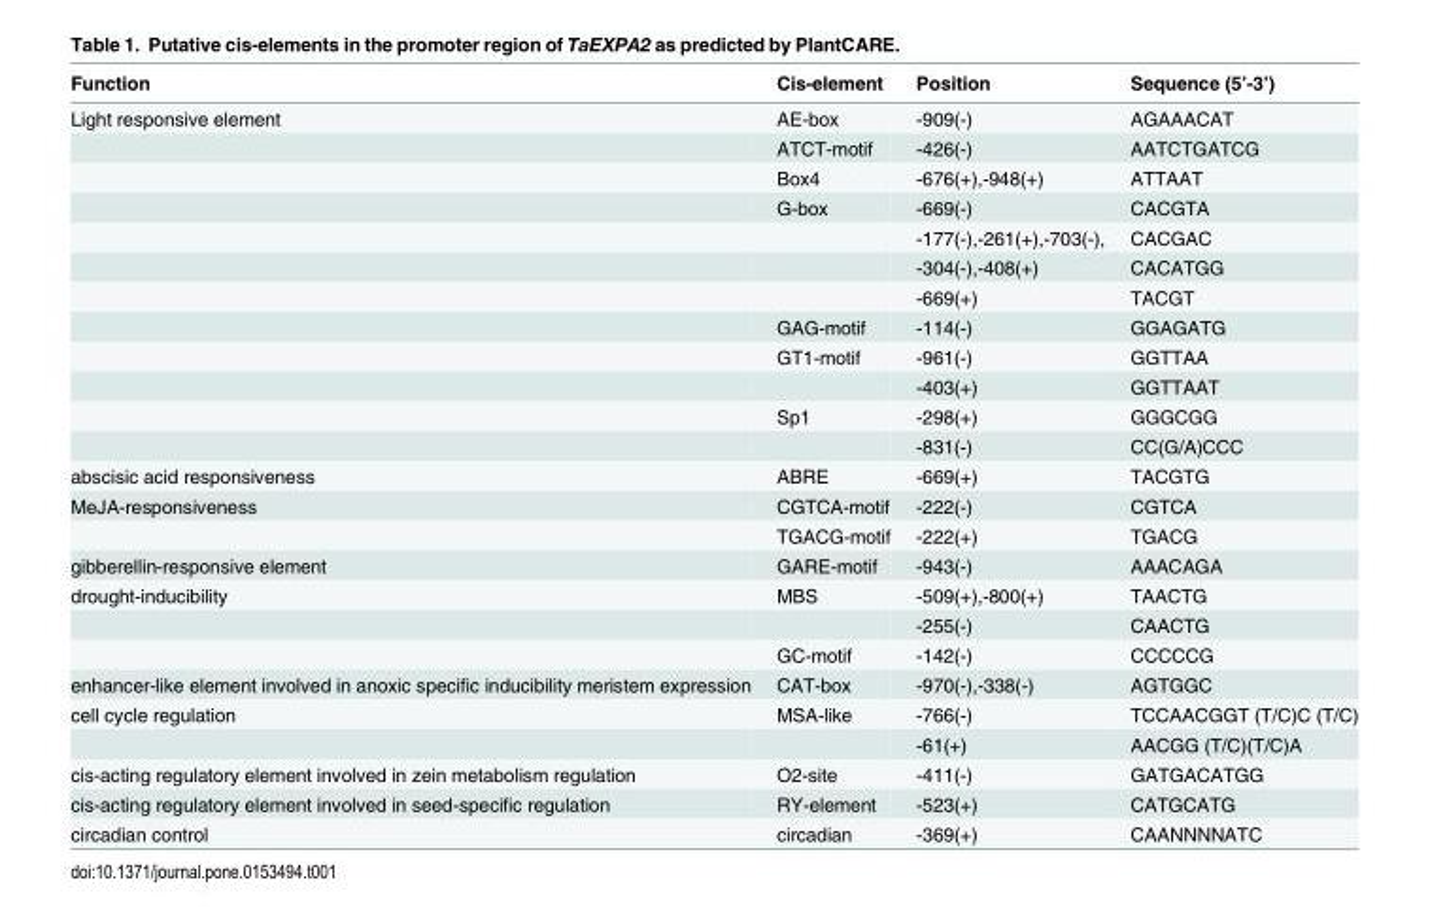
<table><thead><tr><td>Function</td><td>Cis-element</td><td>Position</td><td>Sequence (5’-3’)</td></tr></thead><tbody><tr><td rowspan="12">Light responsive element</td><td>AE-box</td><td>-909(-)</td><td>AGAAACAT</td></tr><tr><td>ATCT-motif</td><td>-426(-)</td><td>AATCTGATCG</td></tr><tr><td>Box4</td><td>-676(+),-948(+)</td><td>ATTAAT</td></tr><tr><td>G-box</td><td>-669(-)</td><td>CACGTA</td></tr><tr><td></td><td>-177(-),-261(+),-703(-),</td><td>CACGAC</td></tr><tr><td></td><td>-304(-),-408(+)</td><td>CACATGG</td></tr><tr><td></td><td>-669(+)</td><td>TACGT</td></tr><tr><td>GAG-motif</td><td>-114(-)</td><td>GGAGATG</td></tr><tr><td>GT1-motif</td><td>-961(-)</td><td>GGTTAA</td></tr><tr><td></td><td>-403(+)</td><td>GGTTAAT</td></tr><tr><td>Sp1</td><td>-298(+)</td><td>GGGCGG</td></tr><tr><td></td><td>-831(-)</td><td>CC(G/A)CCC</td></tr><tr><td>abscisic acid responsiveness</td><td>ABRE</td><td>-669(+)</td><td>TACGTG</td></tr><tr><td rowspan="2">MeJA-responsiveness</td><td>CGTCA-motif</td><td>-222(-)</td><td>CGTCA</td></tr><tr><td>TGACG-motif</td><td>-222(+)</td><td>TGACG</td></tr><tr><td>gibberellin-responsive element</td><td>GARE-motif</td><td>-943(-)</td><td>AAACAGA</td></tr><tr><td rowspan="3">drought-inducibility</td><td>MBS</td><td>-509(+),-800(+)</td><td>TAACTG</td></tr><tr><td></td><td>-255(-)</td><td>CAACTG</td></tr><tr><td>GC-motif</td><td>-142(-)</td><td>CCCCCG</td></tr><tr><td>enhancer-like element involved in anoxic specific inducibility meristem expression</td><td>CAT-box</td><td>-970(-),-338(-)</td><td>AGTGGC</td></tr><tr><td rowspan="2">cell cycle regulation</td><td>MSA-like</td><td>-766(-)</td><td>TCCAACGGT (T/C)C (T/C)</td></tr><tr><td></td><td>-61(+)</td><td>AACGG (T/C)(T/C)A</td></tr><tr><td>cis-acting regulatory element involved in zein metabolism regulation</td><td>O2-site</td><td>-411(-)</td><td>GATGACATGG</td></tr><tr><td>cis-acting regulatory element involved in seed-specific regulation</td><td>RY-element</td><td>-523(+)</td><td>CATGCATG</td></tr><tr><td>circadian control</td><td>circadian</td><td>-369(+)</td><td>CAANNNNATC</td></tr></tbody></table>